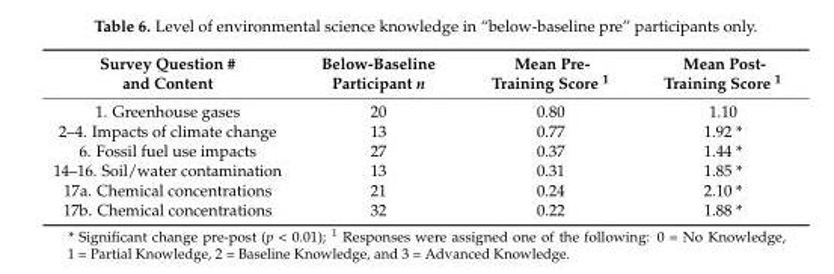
<table><thead><tr><td>Survey Question # and Content</td><td>Below-Baseline Participant n</td><td>Mean Pre- Training Score <sup>1</sup></td><td>Mean Post- Training Score <sup>1</sup></td></tr></thead><tbody><tr><td>1. Greenhouse gases</td><td>20</td><td>0.80</td><td>1.10</td></tr><tr><td>2–4. Impacts of climate change</td><td>13</td><td>0.77</td><td>1.92 *</td></tr><tr><td>6. Fossil fuel use impacts</td><td>27</td><td>0.37</td><td>1.44 *</td></tr><tr><td>14–16. Soil/water contamination</td><td>13</td><td>0.31</td><td>1.85 *</td></tr><tr><td>17a. Chemical concentrations</td><td>21</td><td>0.24</td><td>2.10 *</td></tr><tr><td>17b. Chemical concentrations</td><td>32</td><td>0.22</td><td>1.88 *</td></tr></tbody></table>